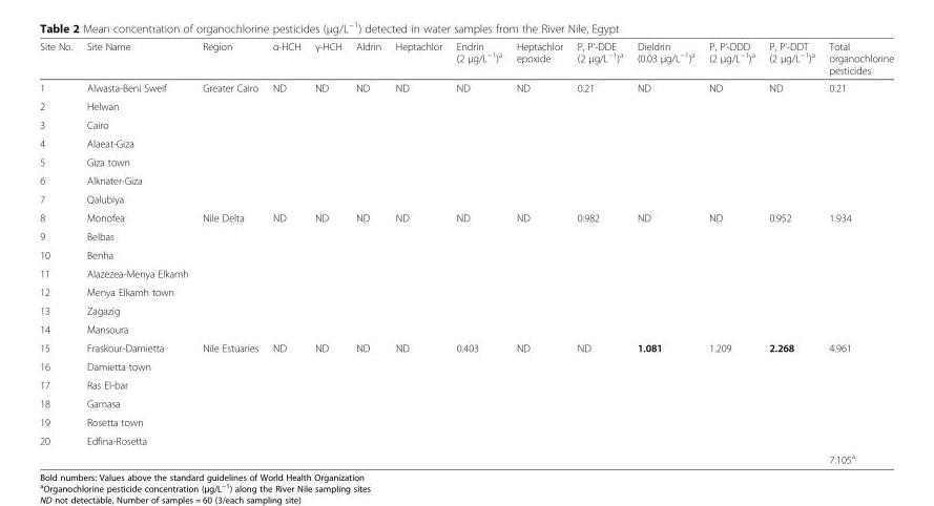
<table><thead><tr><td>Site No.</td><td>Site Name</td><td>Region</td><td>α-HCH</td><td>γ-HCH</td><td>Aldrin</td><td>Heptachlor</td><td>Endrin (2 μg/L<sup>−1</sup>)<sup>a</sup></td><td>Heptachlor epoxide</td><td>P, P’-DDE (2 μg/L<sup>−1</sup>)<sup>a</sup></td><td>Dieldrin (0.03 μg/L<sup>−1</sup>)<sup>a</sup></td><td>P, P’-DDD (2 μg/L<sup>−1</sup>)<sup>a</sup></td><td>P, P’-DDT (2 μg/L<sup>−1</sup>)<sup>a</sup></td><td>Total organochlorine pesticides</td></tr></thead><tbody><tr><td>1</td><td>Alwasta-Beni Sweif</td><td rowspan="7">Greater Cairo</td><td rowspan="7">ND</td><td rowspan="7">ND</td><td rowspan="7">ND</td><td rowspan="7">ND</td><td rowspan="7">ND</td><td rowspan="7">ND</td><td rowspan="7">0.21</td><td rowspan="7">ND</td><td rowspan="7">ND</td><td rowspan="7">ND</td><td rowspan="7">0.21</td></tr><tr><td>2</td><td>Helwan</td></tr><tr><td>3</td><td>Cairo</td></tr><tr><td>4</td><td>Alaeat-Giza</td></tr><tr><td>5</td><td>Giza town</td></tr><tr><td>6</td><td>Alknater-Giza</td></tr><tr><td>7</td><td>Qalubiya</td></tr><tr><td>8</td><td>Monofea</td><td rowspan="7">Nile Delta</td><td rowspan="7">ND</td><td rowspan="7">ND</td><td rowspan="7">ND</td><td rowspan="7">ND</td><td rowspan="7">ND</td><td rowspan="7">ND</td><td rowspan="7">0.982</td><td rowspan="7">ND</td><td rowspan="7">ND</td><td rowspan="7">0.952</td><td rowspan="7">1.934</td></tr><tr><td>9</td><td>Belbas</td></tr><tr><td>10</td><td>Benha</td></tr><tr><td>11</td><td>Alazezea-Menya Elkamh</td></tr><tr><td>12</td><td>Menya Elkamh town</td></tr><tr><td>13</td><td>Zagazig</td></tr><tr><td>14</td><td>Mansoura</td></tr><tr><td>15</td><td>Fraskour-Damietta</td><td rowspan="6">Nile Estuaries</td><td rowspan="6">ND</td><td rowspan="6">ND</td><td rowspan="6">ND</td><td rowspan="6">ND</td><td rowspan="6">0.403</td><td rowspan="6">ND</td><td rowspan="6">ND</td><td rowspan="6">1.081</td><td rowspan="6">1.209</td><td rowspan="6">2.268</td><td rowspan="6">4.961</td></tr><tr><td>16</td><td>Damietta town</td></tr><tr><td>17</td><td>Ras El-bar</td></tr><tr><td>18</td><td>Gamasa</td></tr><tr><td>19</td><td>Rosetta town</td></tr><tr><td>20</td><td>Edfina-Rosetta</td></tr><tr><td colspan="13"></td><td>7.105<sup>a</sup></td></tr></tbody></table>